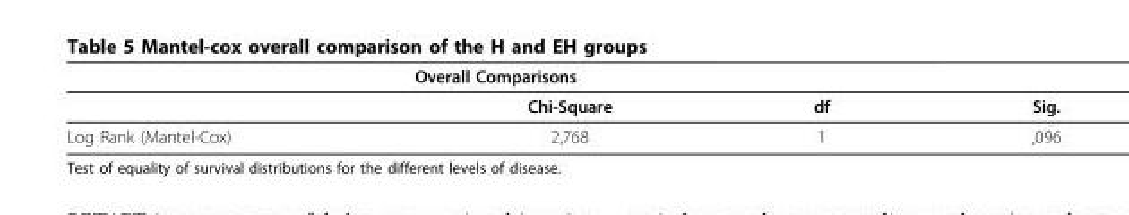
<table><thead><tr><td colspan="3">Overall Comparisons</td><td rowspan="2">Sig.</td></tr><tr><td></td><td>Chi-Square</td><td>df</td></tr></thead><tbody><tr><td>Log Rank (Mantel-Cox)</td><td>2,768</td><td>1</td><td>,096</td></tr></tbody></table>